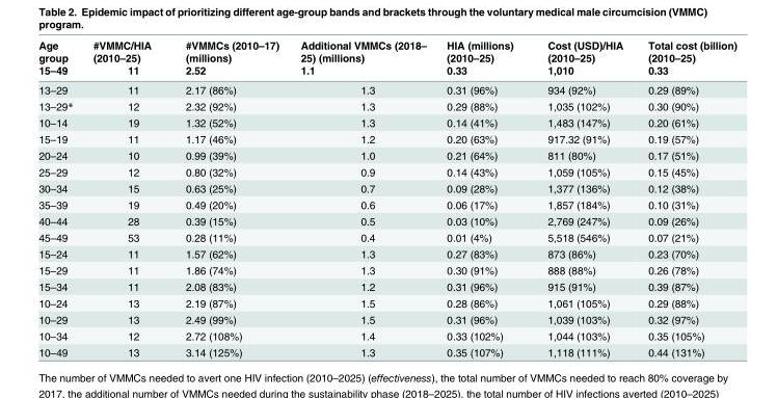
<table><thead><tr><td rowspan="2">Age group 15–49</td><td rowspan="2">#VMMC/HIA (2010–25) 11</td><td rowspan="2">#VMMCs (2010–17) (millions) 2.52</td><td rowspan="2">Additional VMMCs (2018– 25) (millions) 1.1</td><td rowspan="2">HIA (millions) (2010–25) 0.33</td><td rowspan="2">Cost (USD)/HIA (2010–25) 1,010</td><td rowspan="2">Total cost (billion) (2010–25) 0.33</td></tr><tr></tr></thead><tbody><tr><td>13–29</td><td>11</td><td>2.17 (86%)</td><td>1.3</td><td>0.31 (96%)</td><td>934 (92%)</td><td>0.29 (89%)</td></tr><tr><td>13–29*</td><td>12</td><td>2.32 (92%)</td><td>1.3</td><td>0.29 (88%)</td><td>1,035 (102%)</td><td>0.30 (90%)</td></tr><tr><td>10–14</td><td>19</td><td>1.32 (52%)</td><td>1.3</td><td>0.14 (41%)</td><td>1,483 (147%)</td><td>0.20 (61%)</td></tr><tr><td>15–19</td><td>11</td><td>1.17 (46%)</td><td>1.2</td><td>0.20 (63%)</td><td>917.32 (91%)</td><td>0.19 (57%)</td></tr><tr><td>20–24</td><td>10</td><td>0.99 (39%)</td><td>1.0</td><td>0.21 (64%)</td><td>811 (80%)</td><td>0.17 (51%)</td></tr><tr><td>25–29</td><td>12</td><td>0.80 (32%)</td><td>0.9</td><td>0.14 (43%)</td><td>1,059 (105%)</td><td>0.15 (45%)</td></tr><tr><td>30–34</td><td>15</td><td>0.63 (25%)</td><td>0.7</td><td>0.09 (28%)</td><td>1,377 (136%)</td><td>0.12 (38%)</td></tr><tr><td>35–39</td><td>19</td><td>0.49 (20%)</td><td>0.6</td><td>0.06 (17%)</td><td>1,857 (184%)</td><td>0.10 (31%)</td></tr><tr><td>40–44</td><td>28</td><td>0.39 (15%)</td><td>0.5</td><td>0.03 (10%)</td><td>2,769 (247%)</td><td>0.09 (26%)</td></tr><tr><td>45–49</td><td>53</td><td>0.28 (11%)</td><td>0.4</td><td>0.01 (4%)</td><td>5,518 (546%)</td><td>0.07 (21%)</td></tr><tr><td>15–24</td><td>11</td><td>1.57 (62%)</td><td>1.3</td><td>0.27 (83%)</td><td>873 (86%)</td><td>0.23 (70%)</td></tr><tr><td>15–29</td><td>11</td><td>1.86 (74%)</td><td>1.3</td><td>0.30 (91%)</td><td>888 (88%)</td><td>0.26 (78%)</td></tr><tr><td>15–34</td><td>11</td><td>2.08 (83%)</td><td>1.2</td><td>0.31 (96%)</td><td>915 (91%)</td><td>0.39 (87%)</td></tr><tr><td>10–24</td><td>13</td><td>2.19 (87%)</td><td>1.5</td><td>0.28 (86%)</td><td>1,061 (105%)</td><td>0.29 (88%)</td></tr><tr><td>10–29</td><td>13</td><td>2.49 (99%)</td><td>1.5</td><td>0.31 (96%)</td><td>1,039 (103%)</td><td>0.32 (97%)</td></tr><tr><td>10–34</td><td>12</td><td>2.72 (108%)</td><td>1.4</td><td>0.33 (102%)</td><td>1,044 (103%)</td><td>0.35 (105%)</td></tr><tr><td>10–49</td><td>13</td><td>3.14 (125%)</td><td>1.3</td><td>0.35 (107%)</td><td>1,118 (111%)</td><td>0.44 (131%)</td></tr></tbody></table>